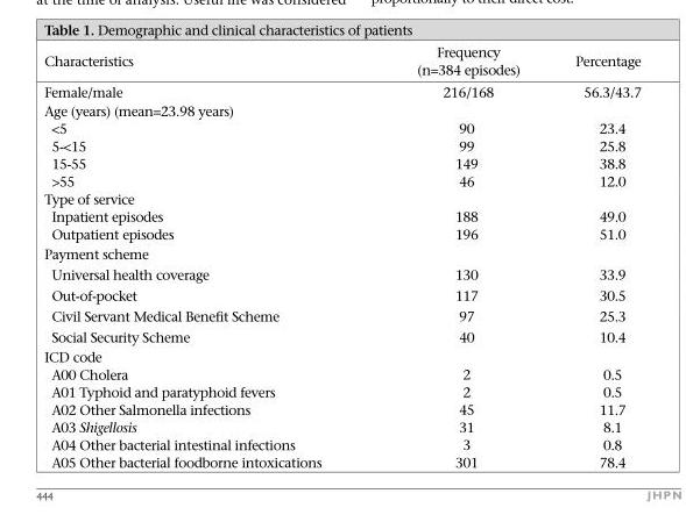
<table><thead><tr><td>Characteristics</td><td>Frequency (n=384 episodes)</td><td>Percentage</td></tr></thead><tbody><tr><td>Female/male</td><td>216/168</td><td>56.3/43.7</td></tr><tr><td colspan="3">Age (years) (mean=23.98 years)</td></tr><tr><td>&lt;5</td><td>90</td><td>23.4</td></tr><tr><td>5-&lt;15</td><td>99</td><td>25.8</td></tr><tr><td>15-55</td><td>149</td><td>38.8</td></tr><tr><td>&gt;55</td><td>46</td><td>12.0</td></tr><tr><td colspan="3">Type of service</td></tr><tr><td>Inpatient episodes</td><td>188</td><td>49.0</td></tr><tr><td>Outpatient episodes</td><td>196</td><td>51.0</td></tr><tr><td colspan="3">Payment scheme</td></tr><tr><td>Universal health coverage</td><td>130</td><td>33.9</td></tr><tr><td>Out-of-pocket</td><td>117</td><td>30.5</td></tr><tr><td>Civil Servant Medical Benefit Scheme</td><td>97</td><td>25.3</td></tr><tr><td>Social Security Scheme</td><td>40</td><td>10.4</td></tr><tr><td colspan="3">ICD code</td></tr><tr><td>A00 Cholera</td><td>2</td><td>0.5</td></tr><tr><td>A01 Typhoid and paratyphoid fevers</td><td>2</td><td>0.5</td></tr><tr><td>A02 Other Salmonella infections</td><td>45</td><td>11.7</td></tr><tr><td>A03 Shigellosis</td><td>31</td><td>8.1</td></tr><tr><td>A04 Other bacterial intestinal infections</td><td>3</td><td>0.8</td></tr><tr><td>A05 Other bacterial foodborne intoxications</td><td>301</td><td>78.4</td></tr></tbody></table>